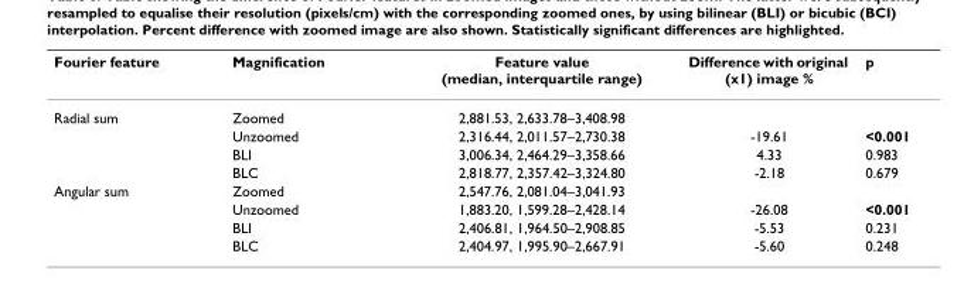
<table><thead><tr><td>Fourier feature</td><td>Magnification</td><td>Feature value (median, interquartile range)</td><td>Difference with original (x1) image %</td><td>p</td></tr></thead><tbody><tr><td rowspan="4">Radial sum</td><td>Zoomed</td><td>2,881.53, 2,633.78–3,408.98</td><td></td><td></td></tr><tr><td>Unzoomed</td><td>2,316.44, 2,011.57–2,730.38</td><td>-19.61</td><td>&lt;0.001</td></tr><tr><td>BLI</td><td>3,006.34, 2,464.29–3,358.66</td><td>4.33</td><td>0.983</td></tr><tr><td>BLC</td><td>2,818.77, 2,357.42–3,324.80</td><td>-2.18</td><td>0.679</td></tr><tr><td rowspan="4">Angular sum</td><td>Zoomed</td><td>2,547.76, 2,081.04–3,041.93</td><td></td><td></td></tr><tr><td>Unzoomed</td><td>1,883.20, 1,599.28–2,428.14</td><td>-26.08</td><td>&lt;0.001</td></tr><tr><td>BLI</td><td>2,406.81, 1,964.50–2,908.85</td><td>-5.53</td><td>0.231</td></tr><tr><td>BLC</td><td>2,404.97, 1,995.90–2,667.91</td><td>-5.60</td><td>0.248</td></tr></tbody></table>